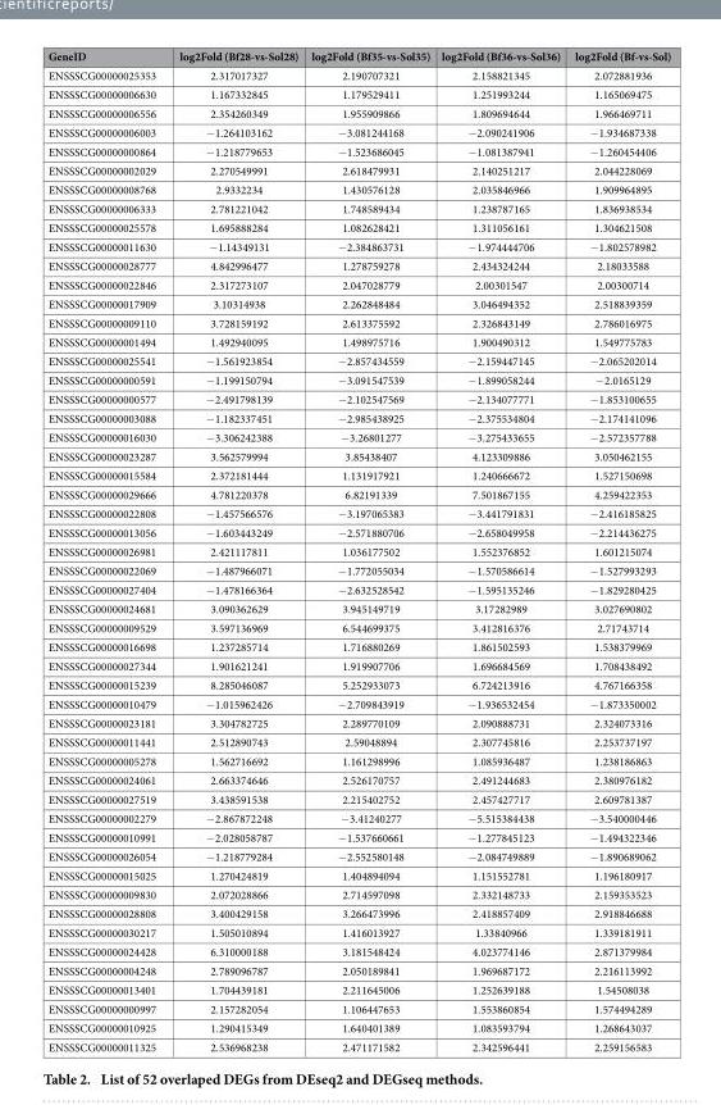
<table><thead><tr><td>GeneID</td><td>log2Fold (Bf28-vs-Sol28)</td><td>log2Fold (Bf35-vs-Sol35)</td><td>log2Fold (Bf36-vs-Sol36)</td><td>log2Fold (Bf-vs-Sol)</td></tr></thead><tbody><tr><td>ENSSSCG00000025353</td><td>2.317017327</td><td>2.190707321</td><td>2.158821345</td><td>2.072881936</td></tr><tr><td>ENSSSCG00000006630</td><td>1.167332845</td><td>1.179529411</td><td>1.251993244</td><td>1.165069475</td></tr><tr><td>ENSSSCG00000006556</td><td>2.354260349</td><td>1.955909866</td><td>1.809694644</td><td>1.966469711</td></tr><tr><td>ENSSSCG00000006003</td><td>− 1.264103162</td><td>− 3.081244168</td><td>− 2.090241906</td><td>− 1.934687338</td></tr><tr><td>ENSSSCG00000000864</td><td>− 1.218779653</td><td>− 1.523686045</td><td>− 1.081387941</td><td>− 1.260454406</td></tr><tr><td>ENSSSCG00000002029</td><td>2.270549991</td><td>2.618479931</td><td>2.140251217</td><td>2.044228069</td></tr><tr><td>ENSSSCG00000008768</td><td>2.9332234</td><td>1.430576128</td><td>2.035846966</td><td>1.909964895</td></tr><tr><td>ENSSSCG00000006333</td><td>2.781221042</td><td>1.748589434</td><td>1.238787165</td><td>1.836938534</td></tr><tr><td>ENSSSCG00000025578</td><td>1.695888284</td><td>1.082628421</td><td>1.311056161</td><td>1.304621508</td></tr><tr><td>ENSSSCG00000011630</td><td>− 1.14349131</td><td>− 2.384863731</td><td>− 1.974444706</td><td>− 1.802578982</td></tr><tr><td>ENSSSCG00000028777</td><td>4.842996477</td><td>1.278759278</td><td>2.434324244</td><td>2.18033588</td></tr><tr><td>ENSSSCG00000022846</td><td>2.317273107</td><td>2.047028779</td><td>2.00301547</td><td>2.00300714</td></tr><tr><td>ENSSSCG00000017909</td><td>3.10314938</td><td>2.262848484</td><td>3.046494352</td><td>2.518839359</td></tr><tr><td>ENSSSCG00000009110</td><td>3.728159192</td><td>2.613375592</td><td>2.326843149</td><td>2.786016975</td></tr><tr><td>ENSSSCG00000001494</td><td>1.492940095</td><td>1.498975716</td><td>1.900490312</td><td>1.549775783</td></tr><tr><td>ENSSSCG00000025541</td><td>− 1.561923854</td><td>− 2.857434559</td><td>− 2.159447145</td><td>− 2.065202014</td></tr><tr><td>ENSSSCG00000000591</td><td>− 1.199150794</td><td>− 3.091547539</td><td>− 1.899058244</td><td>− 2.0165129</td></tr><tr><td>ENSSSCG00000000577</td><td>− 2.491798139</td><td>− 2.102547569</td><td>− 2.134077771</td><td>− 1.853100655</td></tr><tr><td>ENSSSCG00000003088</td><td>− 1.182337451</td><td>− 2.985438925</td><td>− 2.375534804</td><td>− 2.174141096</td></tr><tr><td>ENSSSCG00000016030</td><td>− 3.306242388</td><td>− 3.26801277</td><td>− 3.275433655</td><td>− 2.572357788</td></tr><tr><td>ENSSSCG00000023287</td><td>3.562579994</td><td>3.85438407</td><td>4.123309886</td><td>3.050462155</td></tr><tr><td>ENSSSCG00000015584</td><td>2.372181444</td><td>1.131917921</td><td>1.240666672</td><td>1.527150698</td></tr><tr><td>ENSSSCG00000029666</td><td>4.781220378</td><td>6.82191339</td><td>7.501867155</td><td>4.259422353</td></tr><tr><td>ENSSSCG00000022808</td><td>− 1.457566576</td><td>− 3.197065383</td><td>− 3.441791831</td><td>− 2.416185825</td></tr><tr><td>ENSSSCG00000013056</td><td>− 1.603443249</td><td>− 2.571880706</td><td>− 2.658049958</td><td>− 2.214436275</td></tr><tr><td>ENSSSCG00000026981</td><td>2.421117811</td><td>1.036177502</td><td>1.552376852</td><td>1.601215074</td></tr><tr><td>ENSSSCG00000022069</td><td>− 1.487966071</td><td>− 1.772055034</td><td>− 1.570586614</td><td>− 1.527993293</td></tr><tr><td>ENSSSCG00000027404</td><td>− 1.478166364</td><td>− 2.632528542</td><td>− 1.595135246</td><td>− 1.829280425</td></tr><tr><td>ENSSSCG00000024681</td><td>3.090362629</td><td>3.945149719</td><td>3.17282989</td><td>3.027690802</td></tr><tr><td>ENSSSCG00000009529</td><td>3.597136969</td><td>6.544699375</td><td>3.412816376</td><td>2.71743714</td></tr><tr><td>ENSSSCG00000016698</td><td>1.237285714</td><td>1.716880269</td><td>1.861502593</td><td>1.538379969</td></tr><tr><td>ENSSSCG00000027344</td><td>1.901621241</td><td>1.919907706</td><td>1.696684569</td><td>1.708438492</td></tr><tr><td>ENSSSCG00000015239</td><td>8.285046087</td><td>5.252933073</td><td>6.724213916</td><td>4.767166358</td></tr><tr><td>ENSSSCG00000010479</td><td>− 1.015962426</td><td>− 2.709843919</td><td>− 1.936532454</td><td>− 1.873350002</td></tr><tr><td>ENSSSCG00000023181</td><td>3.304782725</td><td>2.289770109</td><td>2.090888731</td><td>2.324073316</td></tr><tr><td>ENSSSCG00000011441</td><td>2.512890743</td><td>2.59048894</td><td>2.307745816</td><td>2.253737197</td></tr><tr><td>ENSSSCG00000005278</td><td>1.562716692</td><td>1.161298996</td><td>1.085936487</td><td>1.238186863</td></tr><tr><td>ENSSSCG00000024061</td><td>2.663374646</td><td>2.526170757</td><td>2.491244683</td><td>2.380976182</td></tr><tr><td>ENSSSCG00000027519</td><td>3.438591538</td><td>2.215402752</td><td>2.457427717</td><td>2.609781387</td></tr><tr><td>ENSSSCG00000002279</td><td>− 2.867872248</td><td>− 3.41240277</td><td>− 5.515384438</td><td>− 3.540000446</td></tr><tr><td>ENSSSCG00000010991</td><td>− 2.028058787</td><td>− 1.537660661</td><td>− 1.277845123</td><td>− 1.494322346</td></tr><tr><td>ENSSSCG00000026054</td><td>− 1.218779284</td><td>− 2.552580148</td><td>− 2.084749889</td><td>− 1.890689062</td></tr><tr><td>ENSSSCG00000015025</td><td>1.270424819</td><td>1.404894094</td><td>1.151552781</td><td>1.196180917</td></tr><tr><td>ENSSSCG00000009830</td><td>2.072028866</td><td>2.714597098</td><td>2.332148733</td><td>2.159353523</td></tr><tr><td>ENSSSCG00000028808</td><td>3.400429158</td><td>3.266473996</td><td>2.418857409</td><td>2.918846688</td></tr><tr><td>ENSSSCG00000030217</td><td>1.505010894</td><td>1.416013927</td><td>1.33840966</td><td>1.339181911</td></tr><tr><td>ENSSSCG00000024428</td><td>6.310000188</td><td>3.181548424</td><td>4.023774146</td><td>2.871379984</td></tr><tr><td>ENSSSCG00000004248</td><td>2.789096787</td><td>2.050189841</td><td>1.969687172</td><td>2.216113992</td></tr><tr><td>ENSSSCG00000013401</td><td>1.704439181</td><td>2.211645006</td><td>1.252639188</td><td>1.54508038</td></tr><tr><td>ENSSSCG00000000997</td><td>2.157282054</td><td>1.106447653</td><td>1.553860854</td><td>1.574494289</td></tr><tr><td>ENSSSCG00000010925</td><td>1.290415349</td><td>1.640401389</td><td>1.083593794</td><td>1.268643037</td></tr><tr><td>ENSSSCG00000011325</td><td>2.536968238</td><td>2.471171582</td><td>2.342596441</td><td>2.259156583</td></tr></tbody></table>